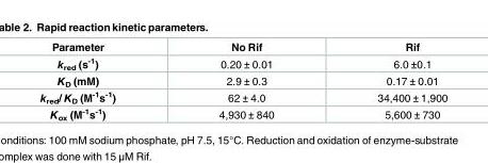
<table><thead><tr><td>Parameter</td><td>No Rif</td><td>Rif</td></tr></thead><tbody><tr><td>k<sub>red</sub> (s<sup>-1</sup>)</td><td>0.20 ± 0.01</td><td>6.0 ±0.1</td></tr><tr><td>K<sub>D</sub> (mM)</td><td>2.9 ± 0.3</td><td>0.17 ± 0.01</td></tr><tr><td>k<sub>red</sub>/ K<sub>D</sub> (M<sup>-1</sup>s<sup>-1</sup>)</td><td>62 ± 4.0</td><td>34,400 ± 1,900</td></tr><tr><td>K<sub>ox</sub> (M<sup>-1</sup>s<sup>-1</sup>)</td><td>4,930 ± 840</td><td>5,600 ± 730</td></tr></tbody></table>